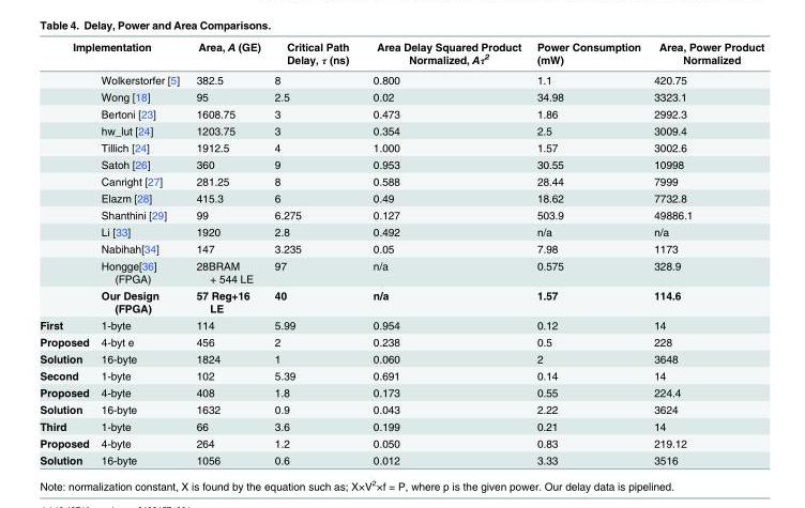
<table><thead><tr><td colspan="2">Implementation</td><td rowspan="2">Area, A (GE) 382.5</td><td rowspan="2">Critical Path Delay, τ (ns) 8</td><td rowspan="2">Area Delay Squared Product Normalized, Aτ<sup>2</sup> 0.800</td><td rowspan="2">Power Consumption (mW) 1.1</td><td rowspan="2">Area, Power Product Normalized 420.75</td></tr><tr><td></td><td>Wolkerstorfer [5]</td></tr></thead><tbody><tr><td></td><td>Wong [18]</td><td>95</td><td>2.5</td><td>0.02</td><td>34.98</td><td>3323.1</td></tr><tr><td></td><td>Bertoni [23]</td><td>1608.75</td><td>3</td><td>0.473</td><td>1.86</td><td>2992.3</td></tr><tr><td></td><td>hw_lut [24]</td><td>1203.75</td><td>3</td><td>0.354</td><td>2.5</td><td>3009.4</td></tr><tr><td></td><td>Tillich [24]</td><td>1912.5</td><td>4</td><td>1.000</td><td>1.57</td><td>3002.6</td></tr><tr><td></td><td>Satoh [26]</td><td>360</td><td>9</td><td>0.953</td><td>30.55</td><td>10998</td></tr><tr><td></td><td>Canright [27]</td><td>281.25</td><td>8</td><td>0.588</td><td>28.44</td><td>7999</td></tr><tr><td></td><td>Elazm [28]</td><td>415.3</td><td>6</td><td>0.49</td><td>18.62</td><td>7732.8</td></tr><tr><td></td><td>Shanthini [29]</td><td>99</td><td>6.275</td><td>0.127</td><td>503.9</td><td>49886.1</td></tr><tr><td></td><td>Li [33]</td><td>1920</td><td>2.8</td><td>0.492</td><td>n/a</td><td>n/a</td></tr><tr><td></td><td>Nabihah[34]</td><td>147</td><td>3.235</td><td>0.05</td><td>7.98</td><td>1173</td></tr><tr><td></td><td>Hongge[36] (FPGA)</td><td>28BRAM + 544 LE</td><td>97</td><td>n/a</td><td>0.575</td><td>328.9</td></tr><tr><td></td><td>Our Design (FPGA)</td><td>57 Reg+16 LE</td><td>40</td><td>n/a</td><td>1.57</td><td>114.6</td></tr><tr><td>First</td><td>1-byte</td><td>114</td><td>5.99</td><td>0.954</td><td>0.12</td><td>14</td></tr><tr><td>Proposed</td><td>4-byt e</td><td>456</td><td>2</td><td>0.238</td><td>0.5</td><td>228</td></tr><tr><td>Solution</td><td>16-byte</td><td>1824</td><td>1</td><td>0.060</td><td>2</td><td>3648</td></tr><tr><td>Second</td><td>1-byte</td><td>102</td><td>5.39</td><td>0.691</td><td>0.14</td><td>14</td></tr><tr><td>Proposed</td><td>4-byte</td><td>408</td><td>1.8</td><td>0.173</td><td>0.55</td><td>224.4</td></tr><tr><td>Solution</td><td>16-byte</td><td>1632</td><td>0.9</td><td>0.043</td><td>2.22</td><td>3624</td></tr><tr><td>Third</td><td>1-byte</td><td>66</td><td>3.6</td><td>0.199</td><td>0.21</td><td>14</td></tr><tr><td>Proposed</td><td>4-byte</td><td>264</td><td>1.2</td><td>0.050</td><td>0.83</td><td>219.12</td></tr><tr><td>Solution</td><td>16-byte</td><td>1056</td><td>0.6</td><td>0.012</td><td>3.33</td><td>3516</td></tr></tbody></table>